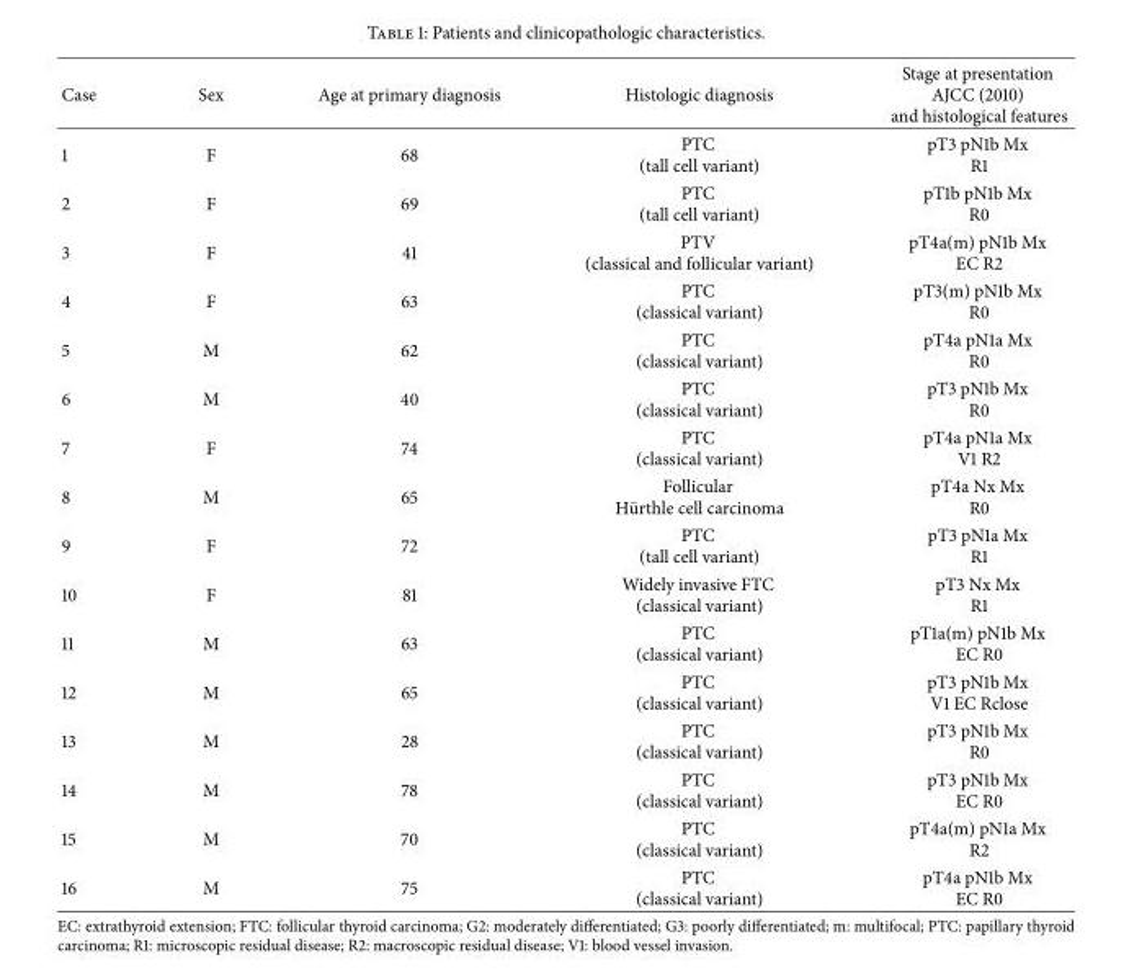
<table><thead><tr><td>Case</td><td>Sex</td><td>Age at primary diagnosis</td><td>Histologic diagnosis</td><td>Stage at presentation AJCC (2010) and histological features</td></tr></thead><tbody><tr><td>1</td><td>F</td><td>68</td><td>PTC (tall cell variant)</td><td>pT3 pN1b Mx R1</td></tr><tr><td>2</td><td>F</td><td>69</td><td>PTC (tall cell variant)</td><td>pT1b pN1b Mx R0</td></tr><tr><td>3</td><td>F</td><td>41</td><td>PTV (classical and follicular variant)</td><td>pT4a(m) pN1b Mx EC R2</td></tr><tr><td>4</td><td>F</td><td>63</td><td>PTC (classical variant)</td><td>pT3(m) pN1b Mx R0</td></tr><tr><td>5</td><td>M</td><td>62</td><td>PTC (classical variant)</td><td>pT4a pN1a Mx R0</td></tr><tr><td>6</td><td>M</td><td>40</td><td>PTC (classical variant)</td><td>pT3 pN1b Mx R0</td></tr><tr><td>7</td><td>F</td><td>74</td><td>PTC (classical variant)</td><td>pT4a pN1a Mx V1 R2</td></tr><tr><td>8</td><td>M</td><td>65</td><td>Follicular H¨urthle cell carcinoma</td><td>pT4a Nx Mx R0</td></tr><tr><td>9</td><td>F</td><td>72</td><td>PTC (tall cell variant)</td><td>pT3 pN1a Mx R1</td></tr><tr><td>10</td><td>F</td><td>81</td><td>Widely invasive FTC (classical variant)</td><td>pT3 Nx Mx R1</td></tr><tr><td>11</td><td>M</td><td>63</td><td>PTC (classical variant)</td><td>pT1a(m) pN1b Mx EC R0</td></tr><tr><td>12</td><td>M</td><td>65</td><td>PTC (classical variant)</td><td>pT3 pN1b Mx V1 EC Rclose</td></tr><tr><td>13</td><td>M</td><td>28</td><td>PTC (classical variant)</td><td>pT3 pN1b Mx R0</td></tr><tr><td>14</td><td>M</td><td>78</td><td>PTC (classical variant)</td><td>pT3 pN1b Mx EC R0</td></tr><tr><td>15</td><td>M</td><td>70</td><td>PTC (classical variant)</td><td>pT4a(m) pN1a Mx R2</td></tr><tr><td>16</td><td>M</td><td>75</td><td>PTC (classical variant)</td><td>pT4a pN1b Mx EC R0</td></tr></tbody></table>